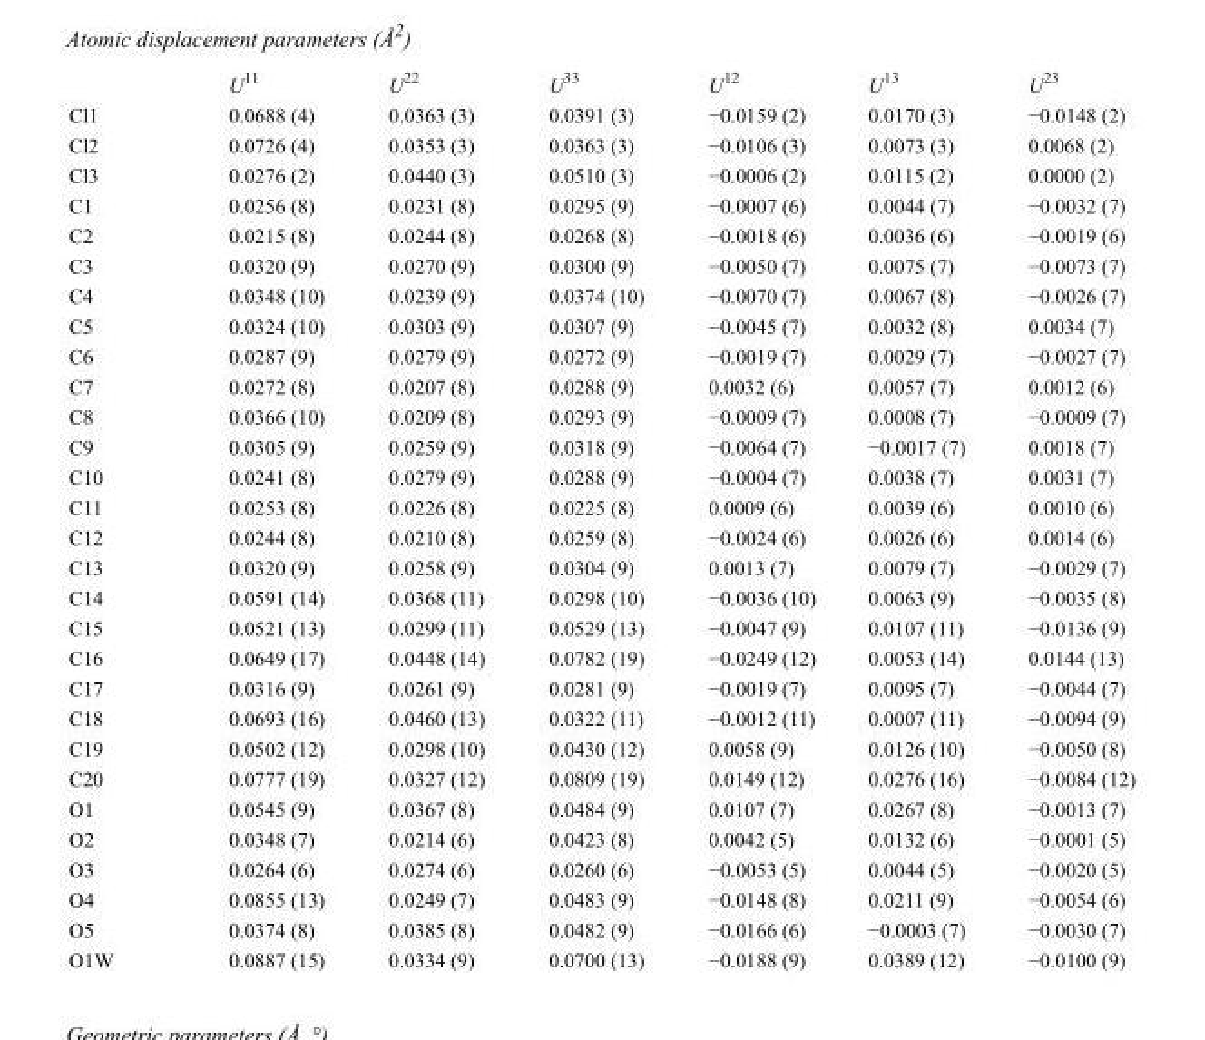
<table><thead><tr><td></td><td>U<sup>11</sup></td><td>U<sup>22</sup></td><td>U<sup>33</sup></td><td>U<sup>12</sup></td><td>U<sup>13</sup></td><td>U<sup>23</sup></td></tr></thead><tbody><tr><td>Cl1</td><td>0.0688 (4)</td><td>0.0363 (3)</td><td>0.0391 (3)</td><td>−0.0159 (2)</td><td>0.0170 (3)</td><td>−0.0148 (2)</td></tr><tr><td>Cl2</td><td>0.0726 (4)</td><td>0.0353 (3)</td><td>0.0363 (3)</td><td>−0.0106 (3)</td><td>0.0073 (3)</td><td>0.0068 (2)</td></tr><tr><td>Cl3</td><td>0.0276 (2)</td><td>0.0440 (3)</td><td>0.0510 (3)</td><td>−0.0006 (2)</td><td>0.0115 (2)</td><td>0.0000 (2)</td></tr><tr><td>C1</td><td>0.0256 (8)</td><td>0.0231 (8)</td><td>0.0295 (9)</td><td>−0.0007 (6)</td><td>0.0044 (7)</td><td>−0.0032 (7)</td></tr><tr><td>C2</td><td>0.0215 (8)</td><td>0.0244 (8)</td><td>0.0268 (8)</td><td>−0.0018 (6)</td><td>0.0036 (6)</td><td>−0.0019 (6)</td></tr><tr><td>C3</td><td>0.0320 (9)</td><td>0.0270 (9)</td><td>0.0300 (9)</td><td>−0.0050 (7)</td><td>0.0075 (7)</td><td>−0.0073 (7)</td></tr><tr><td>C4</td><td>0.0348 (10)</td><td>0.0239 (9)</td><td>0.0374 (10)</td><td>−0.0070 (7)</td><td>0.0067 (8)</td><td>−0.0026 (7)</td></tr><tr><td>C5</td><td>0.0324 (10)</td><td>0.0303 (9)</td><td>0.0307 (9)</td><td>−0.0045 (7)</td><td>0.0032 (8)</td><td>0.0034 (7)</td></tr><tr><td>C6</td><td>0.0287 (9)</td><td>0.0279 (9)</td><td>0.0272 (9)</td><td>−0.0019 (7)</td><td>0.0029 (7)</td><td>−0.0027 (7)</td></tr><tr><td>C7</td><td>0.0272 (8)</td><td>0.0207 (8)</td><td>0.0288 (9)</td><td>0.0032 (6)</td><td>0.0057 (7)</td><td>0.0012 (6)</td></tr><tr><td>C8</td><td>0.0366 (10)</td><td>0.0209 (8)</td><td>0.0293 (9)</td><td>−0.0009 (7)</td><td>0.0008 (7)</td><td>−0.0009 (7)</td></tr><tr><td>C9</td><td>0.0305 (9)</td><td>0.0259 (9)</td><td>0.0318 (9)</td><td>−0.0064 (7)</td><td>−0.0017 (7)</td><td>0.0018 (7)</td></tr><tr><td>C10</td><td>0.0241 (8)</td><td>0.0279 (9)</td><td>0.0288 (9)</td><td>−0.0004 (7)</td><td>0.0038 (7)</td><td>0.0031 (7)</td></tr><tr><td>C11</td><td>0.0253 (8)</td><td>0.0226 (8)</td><td>0.0225 (8)</td><td>0.0009 (6)</td><td>0.0039 (6)</td><td>0.0010 (6)</td></tr><tr><td>C12</td><td>0.0244 (8)</td><td>0.0210 (8)</td><td>0.0259 (8)</td><td>−0.0024 (6)</td><td>0.0026 (6)</td><td>0.0014 (6)</td></tr><tr><td>C13</td><td>0.0320 (9)</td><td>0.0258 (9)</td><td>0.0304 (9)</td><td>0.0013 (7)</td><td>0.0079 (7)</td><td>−0.0029 (7)</td></tr><tr><td>C14</td><td>0.0591 (14)</td><td>0.0368 (11)</td><td>0.0298 (10)</td><td>−0.0036 (10)</td><td>0.0063 (9)</td><td>−0.0035 (8)</td></tr><tr><td>C15</td><td>0.0521 (13)</td><td>0.0299 (11)</td><td>0.0529 (13)</td><td>−0.0047 (9)</td><td>0.0107 (11)</td><td>−0.0136 (9)</td></tr><tr><td>C16</td><td>0.0649 (17)</td><td>0.0448 (14)</td><td>0.0782 (19)</td><td>−0.0249 (12)</td><td>0.0053 (14)</td><td>0.0144 (13)</td></tr><tr><td>C17</td><td>0.0316 (9)</td><td>0.0261 (9)</td><td>0.0281 (9)</td><td>−0.0019 (7)</td><td>0.0095 (7)</td><td>−0.0044 (7)</td></tr><tr><td>C18</td><td>0.0693 (16)</td><td>0.0460 (13)</td><td>0.0322 (11)</td><td>−0.0012 (11)</td><td>0.0007 (11)</td><td>−0.0094 (9)</td></tr><tr><td>C19</td><td>0.0502 (12)</td><td>0.0298 (10)</td><td>0.0430 (12)</td><td>0.0058 (9)</td><td>0.0126 (10)</td><td>−0.0050 (8)</td></tr><tr><td>C20</td><td>0.0777 (19)</td><td>0.0327 (12)</td><td>0.0809 (19)</td><td>0.0149 (12)</td><td>0.0276 (16)</td><td>−0.0084 (12)</td></tr><tr><td>O1</td><td>0.0545 (9)</td><td>0.0367 (8)</td><td>0.0484 (9)</td><td>0.0107 (7)</td><td>0.0267 (8)</td><td>−0.0013 (7)</td></tr><tr><td>O2</td><td>0.0348 (7)</td><td>0.0214 (6)</td><td>0.0423 (8)</td><td>0.0042 (5)</td><td>0.0132 (6)</td><td>−0.0001 (5)</td></tr><tr><td>O3</td><td>0.0264 (6)</td><td>0.0274 (6)</td><td>0.0260 (6)</td><td>−0.0053 (5)</td><td>0.0044 (5)</td><td>−0.0020 (5)</td></tr><tr><td>O4</td><td>0.0855 (13)</td><td>0.0249 (7)</td><td>0.0483 (9)</td><td>−0.0148 (8)</td><td>0.0211 (9)</td><td>−0.0054 (6)</td></tr><tr><td>O5</td><td>0.0374 (8)</td><td>0.0385 (8)</td><td>0.0482 (9)</td><td>−0.0166 (6)</td><td>−0.0003 (7)</td><td>−0.0030 (7)</td></tr><tr><td>O1W</td><td>0.0887 (15)</td><td>0.0334 (9)</td><td>0.0700 (13)</td><td>−0.0188 (9)</td><td>0.0389 (12)</td><td>−0.0100 (9)</td></tr></tbody></table>